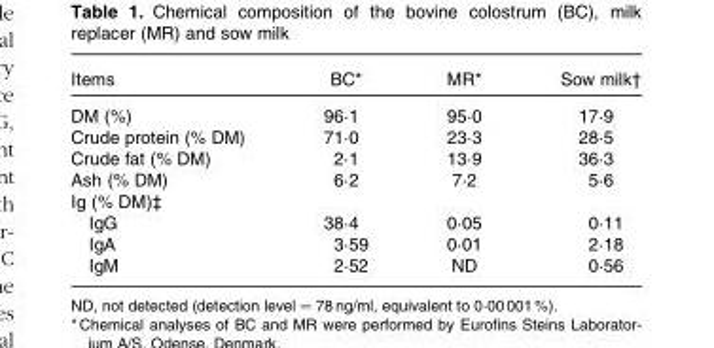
<table><thead><tr><td>Items</td><td>BC*</td><td>MR*</td><td>Sow milk†</td></tr></thead><tbody><tr><td>DM (%)</td><td>96·1</td><td>95·0</td><td>17·9</td></tr><tr><td>Crude protein (% DM)</td><td>71·0</td><td>23·3</td><td>28·5</td></tr><tr><td>Crude fat (% DM)</td><td>2·1</td><td>13·9</td><td>36·3</td></tr><tr><td>Ash (% DM)</td><td>6·2</td><td>7·2</td><td>5·6</td></tr><tr><td colspan="4">Ig (% DM)‡</td></tr><tr><td>IgG</td><td>38·4</td><td>0·05</td><td>0·11</td></tr><tr><td>IgA</td><td>3·59</td><td>0·01</td><td>2·18</td></tr><tr><td>IgM</td><td>2·52</td><td>ND</td><td>0·56</td></tr></tbody></table>